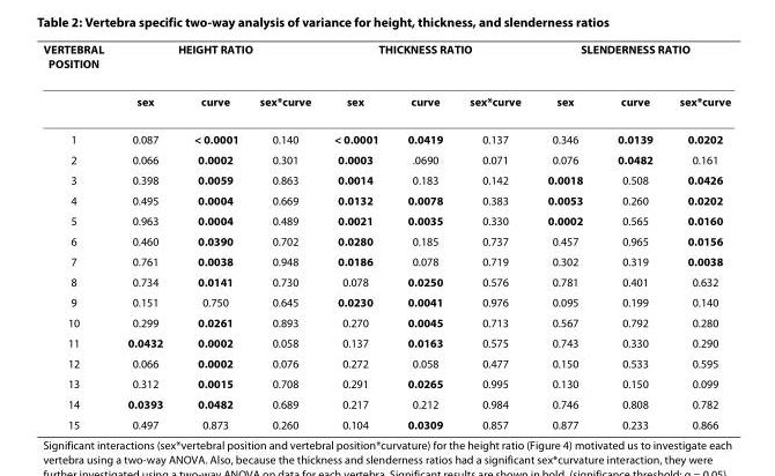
<table><thead><tr><td rowspan="2">VERTEBRAL POSITION</td><td colspan="3">HEIGHT RATIO</td><td colspan="3">THICKNESS RATIO</td><td colspan="3">SLENDERNESS RATIO</td></tr><tr><td>sex</td><td>curve</td><td>sex*curve</td><td>sex</td><td>curve</td><td>sex*curve</td><td>sex</td><td>curve</td><td>sex*curve</td></tr></thead><tbody><tr><td>1</td><td>0.087</td><td>&lt; 0.0001</td><td>0.140</td><td>&lt; 0.0001</td><td>0.0419</td><td>0.137</td><td>0.346</td><td>0.0139</td><td>0.0202</td></tr><tr><td>2</td><td>0.066</td><td>0.0002</td><td>0.301</td><td>0.0003</td><td>.0690</td><td>0.071</td><td>0.076</td><td>0.0482</td><td>0.161</td></tr><tr><td>3</td><td>0.398</td><td>0.0059</td><td>0.863</td><td>0.0014</td><td>0.183</td><td>0.142</td><td>0.0018</td><td>0.508</td><td>0.0426</td></tr><tr><td>4</td><td>0.495</td><td>0.0004</td><td>0.669</td><td>0.0132</td><td>0.0078</td><td>0.383</td><td>0.0053</td><td>0.260</td><td>0.0202</td></tr><tr><td>5</td><td>0.963</td><td>0.0004</td><td>0.489</td><td>0.0021</td><td>0.0035</td><td>0.330</td><td>0.0002</td><td>0.565</td><td>0.0160</td></tr><tr><td>6</td><td>0.460</td><td>0.0390</td><td>0.702</td><td>0.0280</td><td>0.185</td><td>0.737</td><td>0.457</td><td>0.965</td><td>0.0156</td></tr><tr><td>7</td><td>0.761</td><td>0.0038</td><td>0.948</td><td>0.0186</td><td>0.078</td><td>0.719</td><td>0.302</td><td>0.319</td><td>0.0038</td></tr><tr><td>8</td><td>0.734</td><td>0.0141</td><td>0.730</td><td>0.078</td><td>0.0250</td><td>0.576</td><td>0.781</td><td>0.401</td><td>0.632</td></tr><tr><td>9</td><td>0.151</td><td>0.750</td><td>0.645</td><td>0.0230</td><td>0.0041</td><td>0.976</td><td>0.095</td><td>0.199</td><td>0.140</td></tr><tr><td>10</td><td>0.299</td><td>0.0261</td><td>0.893</td><td>0.270</td><td>0.0045</td><td>0.713</td><td>0.567</td><td>0.792</td><td>0.280</td></tr><tr><td>11</td><td>0.0432</td><td>0.0002</td><td>0.058</td><td>0.137</td><td>0.0163</td><td>0.575</td><td>0.743</td><td>0.330</td><td>0.290</td></tr><tr><td>12</td><td>0.066</td><td>0.0002</td><td>0.076</td><td>0.272</td><td>0.058</td><td>0.477</td><td>0.150</td><td>0.533</td><td>0.595</td></tr><tr><td>13</td><td>0.312</td><td>0.0015</td><td>0.708</td><td>0.291</td><td>0.0265</td><td>0.995</td><td>0.130</td><td>0.150</td><td>0.099</td></tr><tr><td>14</td><td>0.0393</td><td>0.0482</td><td>0.689</td><td>0.217</td><td>0.212</td><td>0.984</td><td>0.746</td><td>0.808</td><td>0.782</td></tr><tr><td>15</td><td>0.497</td><td>0.873</td><td>0.260</td><td>0.104</td><td>0.0309</td><td>0.857</td><td>0.877</td><td>0.233</td><td>0.866</td></tr></tbody></table>